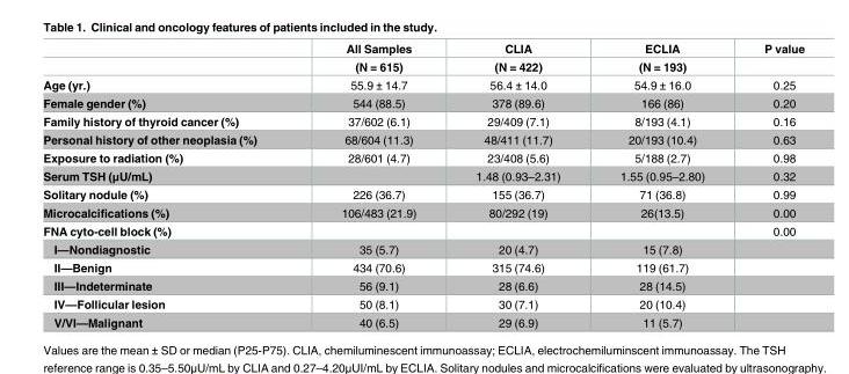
<table><thead><tr><td rowspan="2"></td><td rowspan="2">All Samples (N = 615)</td><td rowspan="2">CLIA (N = 422)</td><td rowspan="2">ECLIA (N = 193)</td><td rowspan="2">P value</td></tr><tr></tr></thead><tbody><tr><td>Age (yr.)</td><td>55.9 ± 14.7</td><td>56.4 ± 14.0</td><td>54.9 ± 16.0</td><td>0.25</td></tr><tr><td>Female gender (%)</td><td>544 (88.5)</td><td>378 (89.6)</td><td>166 (86)</td><td>0.20</td></tr><tr><td>Family history of thyroid cancer (%)</td><td>37/602 (6.1)</td><td>29/409 (7.1)</td><td>8/193 (4.1)</td><td>0.16</td></tr><tr><td>Personal history of other neoplasia (%)</td><td>68/604 (11.3)</td><td>48/411 (11.7)</td><td>20/193 (10.4)</td><td>0.63</td></tr><tr><td>Exposure to radiation (%)</td><td>28/601 (4.7)</td><td>23/408 (5.6)</td><td>5/188 (2.7)</td><td>0.98</td></tr><tr><td>Serum TSH (μU/mL)</td><td></td><td>1.48 (0.93–2.31)</td><td>1.55 (0.95–2.80)</td><td>0.32</td></tr><tr><td>Solitary nodule (%)</td><td>226 (36.7)</td><td>155 (36.7)</td><td>71 (36.8)</td><td>0.99</td></tr><tr><td>Microcalcifications (%)</td><td>106/483 (21.9)</td><td>80/292 (19)</td><td>26(13.5)</td><td>0.00</td></tr><tr><td>FNA cyto-cell block (%)</td><td></td><td></td><td></td><td>0.00</td></tr><tr><td>I—Nondiagnostic</td><td>35 (5.7)</td><td>20 (4.7)</td><td>15 (7.8)</td><td></td></tr><tr><td>II—Benign</td><td>434 (70.6)</td><td>315 (74.6)</td><td>119 (61.7)</td><td></td></tr><tr><td>III—Indeterminate</td><td>56 (9.1)</td><td>28 (6.6)</td><td>28 (14.5)</td><td></td></tr><tr><td>IV—Follicular lesion</td><td>50 (8.1)</td><td>30 (7.1)</td><td>20 (10.4)</td><td></td></tr><tr><td>V/VI—Malignant</td><td>40 (6.5)</td><td>29 (6.9)</td><td>11 (5.7)</td><td></td></tr></tbody></table>